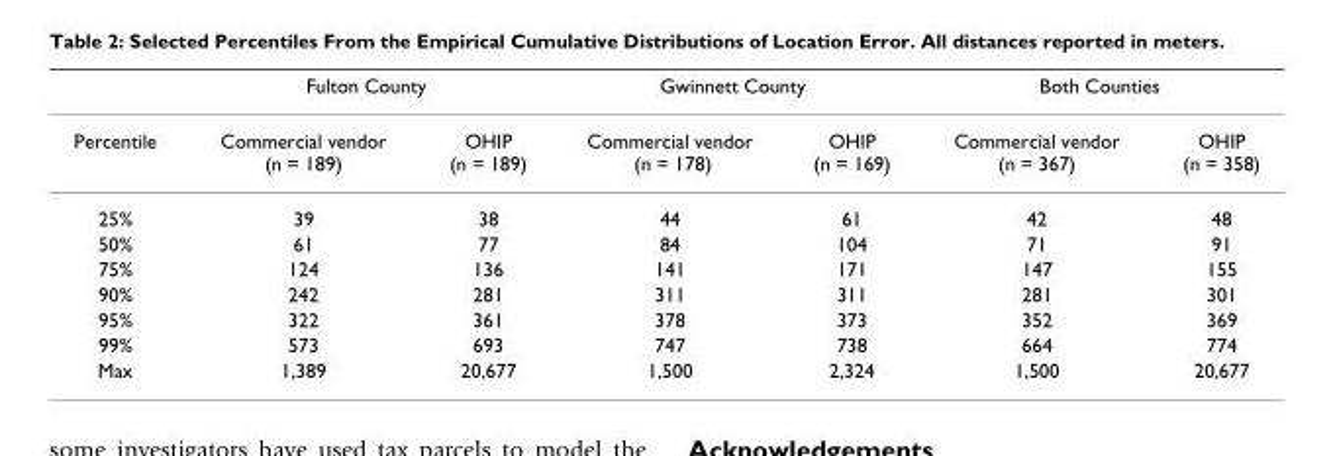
<table><thead><tr><td rowspan="2">Percentile</td><td colspan="2">Fulton County</td><td colspan="2">Gwinnett County</td><td colspan="2">Both Counties</td></tr><tr><td>Commercial vendor (n = 189)</td><td>OHIP (n = 189)</td><td>Commercial vendor (n = 178)</td><td>OHIP (n = 169)</td><td>Commercial vendor (n = 367)</td><td>OHIP (n = 358)</td></tr></thead><tbody><tr><td>25%</td><td>39</td><td>38</td><td>44</td><td>61</td><td>42</td><td>48</td></tr><tr><td>50%</td><td>61</td><td>77</td><td>84</td><td>104</td><td>71</td><td>91</td></tr><tr><td>75%</td><td>124</td><td>136</td><td>141</td><td>171</td><td>147</td><td>155</td></tr><tr><td>90%</td><td>242</td><td>281</td><td>311</td><td>311</td><td>281</td><td>301</td></tr><tr><td>95%</td><td>322</td><td>361</td><td>378</td><td>373</td><td>352</td><td>369</td></tr><tr><td>99%</td><td>573</td><td>693</td><td>747</td><td>738</td><td>664</td><td>774</td></tr><tr><td>Max</td><td>1,389</td><td>20,677</td><td>1,500</td><td>2,324</td><td>1,500</td><td>20,677</td></tr></tbody></table>